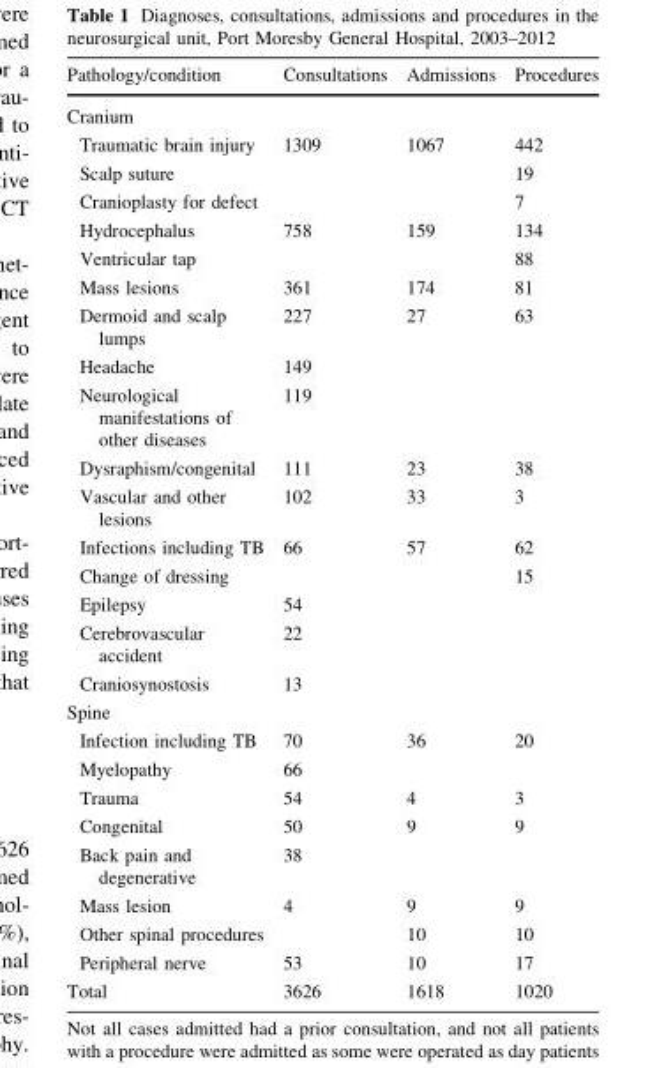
<table><thead><tr><td>Pathology/condition</td><td>Consultations</td><td>Admissions</td><td>Procedures</td></tr></thead><tbody><tr><td colspan="4">Cranium</td></tr><tr><td>Traumatic brain injury</td><td>1309</td><td>1067</td><td>442</td></tr><tr><td>Scalp suture</td><td></td><td></td><td>19</td></tr><tr><td>Cranioplasty for defect</td><td></td><td></td><td>7</td></tr><tr><td>Hydrocephalus</td><td>758</td><td>159</td><td>134</td></tr><tr><td>Ventricular tap</td><td></td><td></td><td>88</td></tr><tr><td>Mass lesions</td><td>361</td><td>174</td><td>81</td></tr><tr><td>Dermoid and scalp lumps</td><td>227</td><td>27</td><td>63</td></tr><tr><td>Headache</td><td>149</td><td></td><td></td></tr><tr><td>Neurological manifestations of other diseases</td><td>119</td><td></td><td></td></tr><tr><td>Dysraphism/congenital</td><td>111</td><td>23</td><td>38</td></tr><tr><td>Vascular and other lesions</td><td>102</td><td>33</td><td>3</td></tr><tr><td>Infections including TB</td><td>66</td><td>57</td><td>62</td></tr><tr><td>Change of dressing</td><td></td><td></td><td>15</td></tr><tr><td>Epilepsy</td><td>54</td><td></td><td></td></tr><tr><td>Cerebrovascular accident</td><td>22</td><td></td><td></td></tr><tr><td>Craniosynostosis</td><td>13</td><td></td><td></td></tr><tr><td colspan="4">Spine</td></tr><tr><td>Infection including TB</td><td>70</td><td>36</td><td>20</td></tr><tr><td>Myelopathy</td><td>66</td><td></td><td></td></tr><tr><td>Trauma</td><td>54</td><td>4</td><td>3</td></tr><tr><td>Congenital</td><td>50</td><td>9</td><td>9</td></tr><tr><td>Back pain and degenerative</td><td>38</td><td></td><td></td></tr><tr><td>Mass lesion</td><td>4</td><td>9</td><td>9</td></tr><tr><td>Other spinal procedures</td><td></td><td>10</td><td>10</td></tr><tr><td>Peripheral nerve</td><td>53</td><td>10</td><td>17</td></tr><tr><td>Total</td><td>3626</td><td>1618</td><td>1020</td></tr></tbody></table>